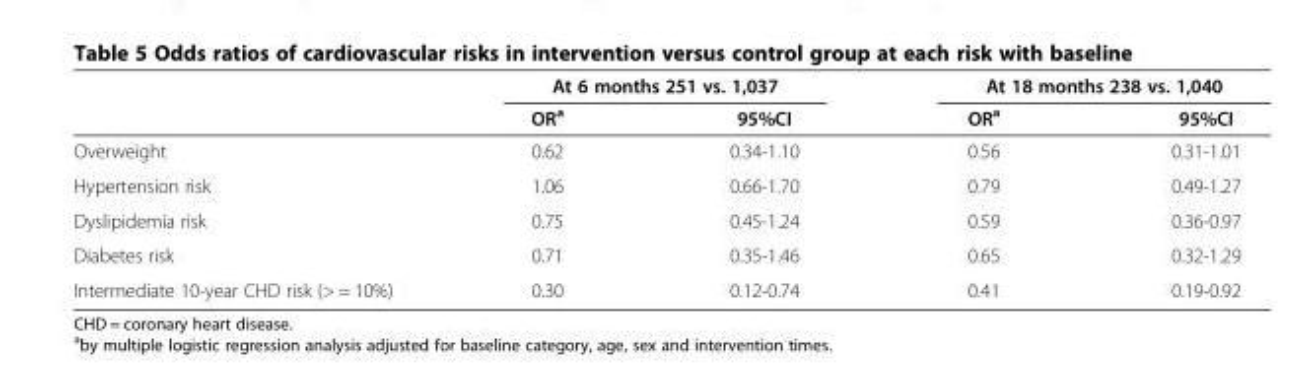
<table><thead><tr><td rowspan="2"></td><td colspan="2">At 6 months 251 vs. 1,037</td><td colspan="2">At 18 months 238 vs. 1,040</td></tr><tr><td>OR<sup>a</sup></td><td>95%CI</td><td>OR<sup>a</sup></td><td>95%CI</td></tr></thead><tbody><tr><td>Overweight</td><td>0.62</td><td>0.34-1.10</td><td>0.56</td><td>0.31-1.01</td></tr><tr><td>Hypertension risk</td><td>1.06</td><td>0.66-1.70</td><td>0.79</td><td>0.49-1.27</td></tr><tr><td>Dyslipidemia risk</td><td>0.75</td><td>0.45-1.24</td><td>0.59</td><td>0.36-0.97</td></tr><tr><td>Diabetes risk</td><td>0.71</td><td>0.35-1.46</td><td>0.65</td><td>0.32-1.29</td></tr><tr><td>Intermediate 10-year CHD risk (&gt; = 10%)</td><td>0.30</td><td>0.12-0.74</td><td>0.41</td><td>0.19-0.92</td></tr></tbody></table>